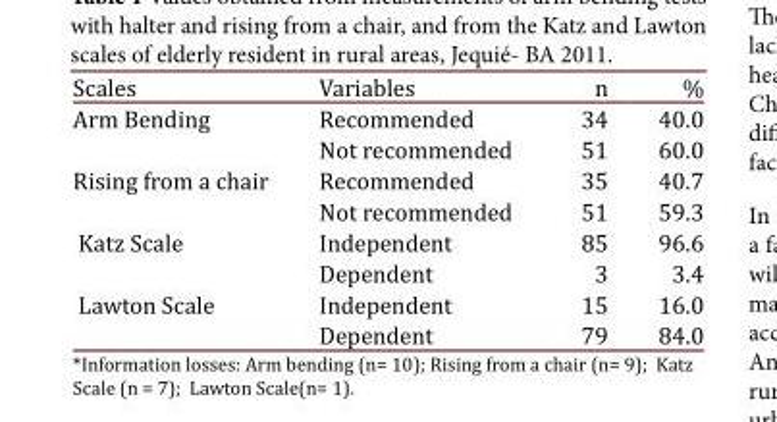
<table><thead><tr><td>Scales</td><td>Variables</td><td>n</td><td>%</td></tr></thead><tbody><tr><td rowspan="2">Arm Bending</td><td>Recommended</td><td>34</td><td>40.0</td></tr><tr><td>Not recommended</td><td>51</td><td>60.0</td></tr><tr><td rowspan="2">Rising from a chair</td><td>Recommended</td><td>35</td><td>40.7</td></tr><tr><td>Not recommended</td><td>51</td><td>59.3</td></tr><tr><td rowspan="2">Katz Scale</td><td>Independent</td><td>85</td><td>96.6</td></tr><tr><td>Dependent</td><td>3</td><td>3.4</td></tr><tr><td rowspan="2">Lawton Scale</td><td>Independent</td><td>15</td><td>16.0</td></tr><tr><td>Dependent</td><td>79</td><td>84.0</td></tr></tbody></table>